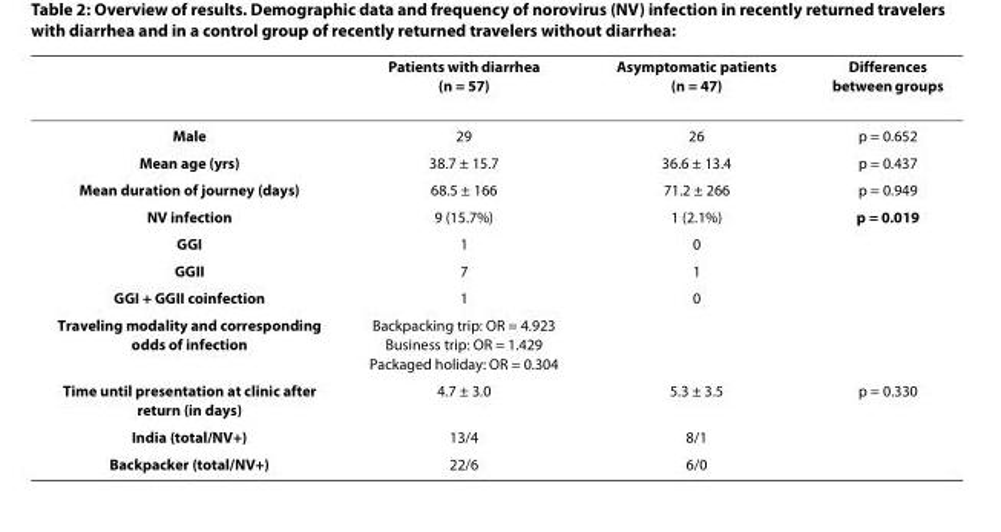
<table><thead><tr><td></td><td>Patients with diarrhea (n = 57)</td><td>Asymptomatic patients (n = 47)</td><td>Differences between groups</td></tr></thead><tbody><tr><td>Male</td><td>29</td><td>26</td><td>p = 0.652</td></tr><tr><td>Mean age (yrs)</td><td>38.7 ± 15.7</td><td>36.6 ± 13.4</td><td>p = 0.437</td></tr><tr><td>Mean duration of journey (days)</td><td>68.5 ± 166</td><td>71.2 ± 266</td><td>p = 0.949</td></tr><tr><td>NV infection</td><td>9 (15.7%)</td><td>1 (2.1%)</td><td>p = 0.019</td></tr><tr><td>GGI</td><td>1</td><td>0</td><td></td></tr><tr><td>GGII</td><td>7</td><td>1</td><td></td></tr><tr><td>GGI + GGII coinfection</td><td>1</td><td>0</td><td></td></tr><tr><td>Traveling modality and corresponding odds of infection</td><td>Backpacking trip: OR = 4.923 Business trip: OR = 1.429 Packaged holiday: OR = 0.304</td><td></td><td></td></tr><tr><td>Time until presentation at clinic after return (in days)</td><td>4.7 ± 3.0</td><td>5.3 ± 3.5</td><td>p = 0.330</td></tr><tr><td>India (total/NV+)</td><td>13/4</td><td>8/1</td><td></td></tr><tr><td>Backpacker (total/NV+)</td><td>22/6</td><td>6/0</td><td></td></tr></tbody></table>